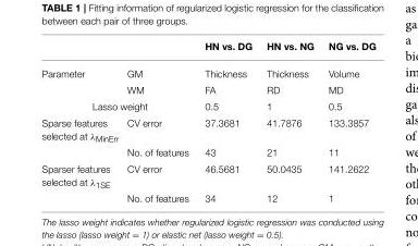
<table><thead><tr><td></td><td></td><td>HN vs. DG</td><td>HN vs. NG</td><td>NG vs. DG</td></tr></thead><tbody><tr><td rowspan="2">Parameter</td><td>GM</td><td>Thickness</td><td>Thickness</td><td>Volume</td></tr><tr><td>WM</td><td>FA</td><td>RD</td><td>MD</td></tr><tr><td colspan="2">Lasso weight</td><td>0.5</td><td>1</td><td>0.5</td></tr><tr><td rowspan="2">Sparse features selected at λ<sub>MinErr</sub></td><td>CV error</td><td>37.3681</td><td>41.7876</td><td>133.3857</td></tr><tr><td>No. of features</td><td>43</td><td>21</td><td>11</td></tr><tr><td rowspan="2">Sparser features selected at λ<sub>1SE</sub></td><td>CV error</td><td>46.5681</td><td>50.0435</td><td>141.2622</td></tr><tr><td>No. of features</td><td>34</td><td>12</td><td>1</td></tr></tbody></table>